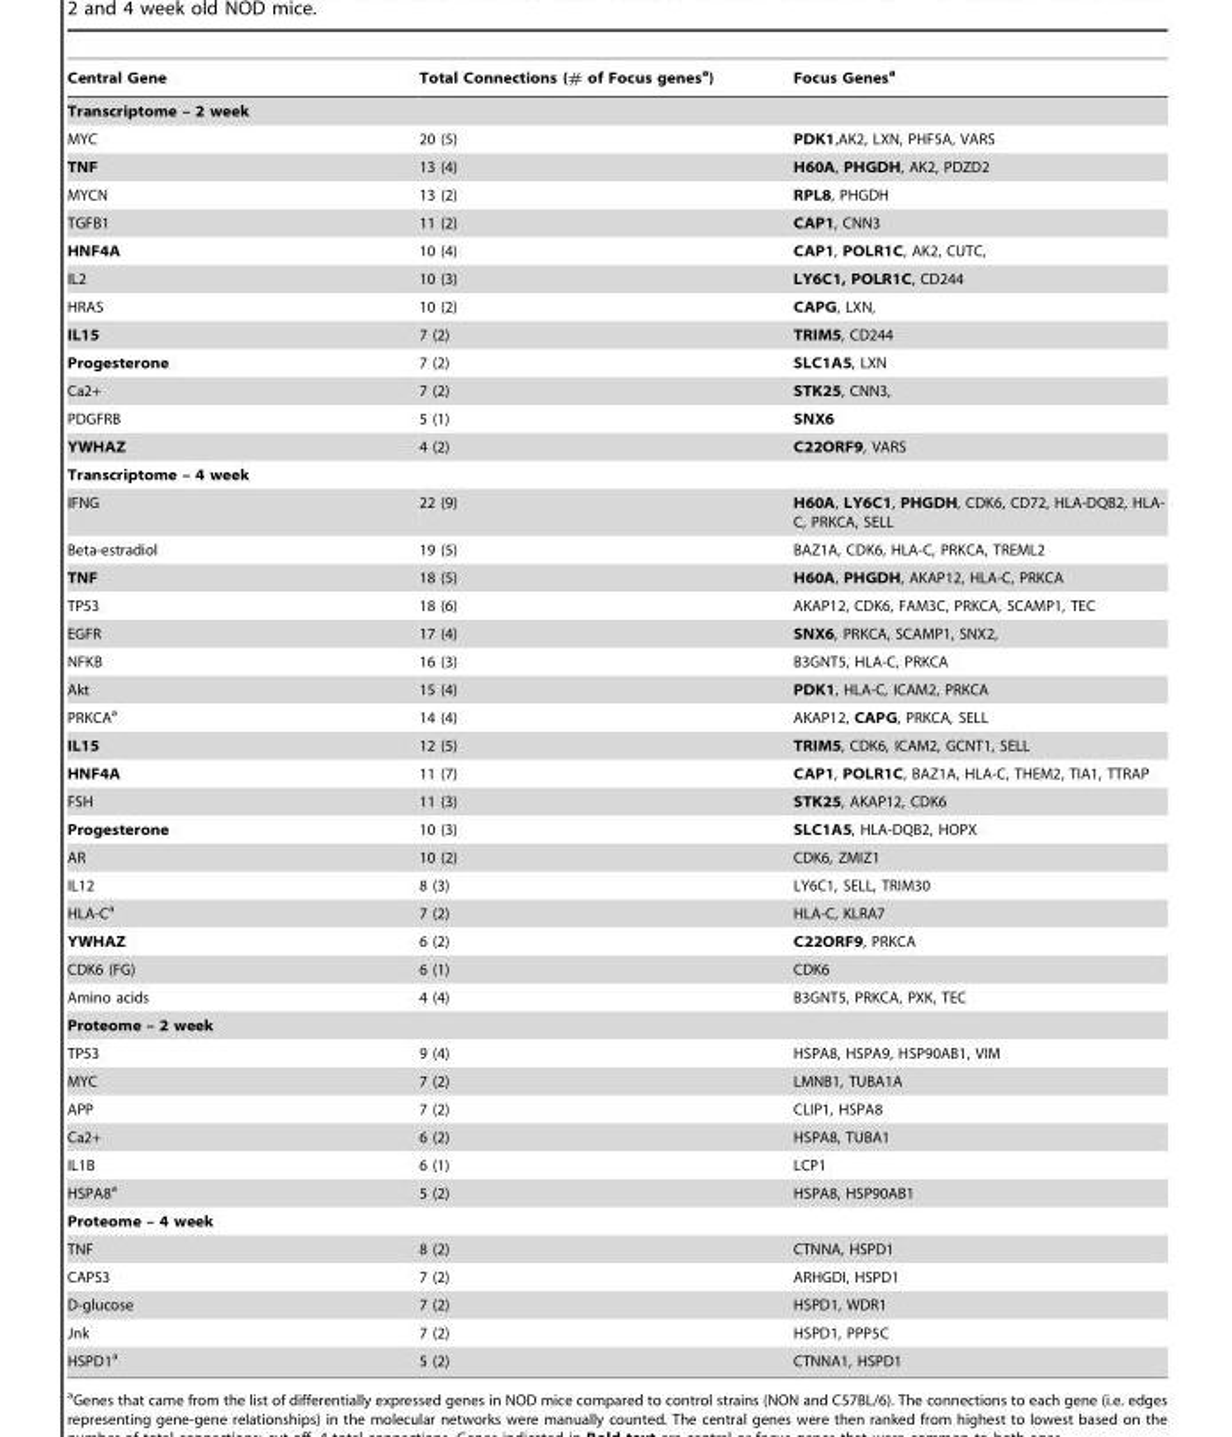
<table><thead><tr><td>Central Gene</td><td>Total Connections (# of Focus genes<sup>a</sup>)</td><td>Focus Genes<sup>a</sup></td></tr></thead><tbody><tr><td colspan="3">Transcriptome – 2 week</td></tr><tr><td>MYC</td><td>20 (5)</td><td>PDK1,AK2, LXN, PHF5A, VARS</td></tr><tr><td>TNF</td><td>13 (4)</td><td>H60A, PHGDH, AK2, PDZD2</td></tr><tr><td>MYCN</td><td>13 (2)</td><td>RPL8, PHGDH</td></tr><tr><td>TGFB1</td><td>11 (2)</td><td>CAP1, CNN3</td></tr><tr><td>HNF4A</td><td>10 (4)</td><td>CAP1, POLR1C, AK2, CUTC,</td></tr><tr><td>IL2</td><td>10 (3)</td><td>LY6C1, POLR1C, CD244</td></tr><tr><td>HRAS</td><td>10 (2)</td><td>CAPG, LXN,</td></tr><tr><td>IL15</td><td>7 (2)</td><td>TRIM5, CD244</td></tr><tr><td>Progesterone</td><td>7 (2)</td><td>SLC1A5, LXN</td></tr><tr><td>Ca2+</td><td>7 (2)</td><td>STK25, CNN3,</td></tr><tr><td>PDGFRB</td><td>5 (1)</td><td>SNX6</td></tr><tr><td>YWHAZ</td><td>4 (2)</td><td>C22ORF9, VARS</td></tr><tr><td colspan="3">Transcriptome – 4 week</td></tr><tr><td>IFNG</td><td>22 (9)</td><td>H60A, LY6C1, PHGDH, CDK6, CD72, HLA-DQB2, HLA- C, PRKCA, SELL</td></tr><tr><td>Beta-estradiol</td><td>19 (5)</td><td>BAZ1A, CDK6, HLA-C, PRKCA, TREML2</td></tr><tr><td>TNF</td><td>18 (5)</td><td>H60A, PHGDH, AKAP12, HLA-C, PRKCA</td></tr><tr><td>TP53</td><td>18 (6)</td><td>AKAP12, CDK6, FAM3C, PRKCA, SCAMP1, TEC</td></tr><tr><td>EGFR</td><td>17 (4)</td><td>SNX6, PRKCA, SCAMP1, SNX2,</td></tr><tr><td>NFKB</td><td>16 (3)</td><td>B3GNT5, HLA-C, PRKCA</td></tr><tr><td>Akt</td><td>15 (4)</td><td>PDK1, HLA-C, ICAM2, PRKCA</td></tr><tr><td>PRKCA<sup>a</sup></td><td>14 (4)</td><td>AKAP12, CAPG, PRKCA, SELL</td></tr><tr><td>IL15</td><td>12 (5)</td><td>TRIM5, CDK6, ICAM2, GCNT1, SELL</td></tr><tr><td>HNF4A</td><td>11 (7)</td><td>CAP1, POLR1C, BAZ1A, HLA-C, THEM2, TIA1, TTRAP</td></tr><tr><td>FSH</td><td>11 (3)</td><td>STK25, AKAP12, CDK6</td></tr><tr><td>Progesterone</td><td>10 (3)</td><td>SLC1A5, HLA-DQB2, HOPX</td></tr><tr><td>AR</td><td>10 (2)</td><td>CDK6, ZMIZ1</td></tr><tr><td>IL12</td><td>8 (3)</td><td>LY6C1, SELL, TRIM30</td></tr><tr><td>HLA-C<sup>a</sup></td><td>7 (2)</td><td>HLA-C, KLRA7</td></tr><tr><td>YWHAZ</td><td>6 (2)</td><td>C22ORF9, PRKCA</td></tr><tr><td>CDK6 (FG)</td><td>6 (1)</td><td>CDK6</td></tr><tr><td>Amino acids</td><td>4 (4)</td><td>B3GNT5, PRKCA, PXK, TEC</td></tr><tr><td colspan="3">Proteome – 2 week</td></tr><tr><td>TP53</td><td>9 (4)</td><td>HSPA8, HSPA9, HSP90AB1, VIM</td></tr><tr><td>MYC</td><td>7 (2)</td><td>LMNB1, TUBA1A</td></tr><tr><td>APP</td><td>7 (2)</td><td>CLIP1, HSPA8</td></tr><tr><td>Ca2+</td><td>6 (2)</td><td>HSPA8, TUBA1</td></tr><tr><td>IL1B</td><td>6 (1)</td><td>LCP1</td></tr><tr><td>HSPA8<sup>a</sup></td><td>5 (2)</td><td>HSPA8, HSP90AB1</td></tr><tr><td colspan="3">Proteome – 4 week</td></tr><tr><td>TNF</td><td>8 (2)</td><td>CTNNA, HSPD1</td></tr><tr><td>CAPS3</td><td>7 (2)</td><td>ARHGDI, HSPD1</td></tr><tr><td>D-glucose</td><td>7 (2)</td><td>HSPD1, WDR1</td></tr><tr><td>Jnk</td><td>7 (2)</td><td>HSPD1, PPP5C</td></tr><tr><td>HSPD1<sup>a</sup></td><td>5 (2)</td><td>CTNNA1, HSPD1</td></tr></tbody></table>